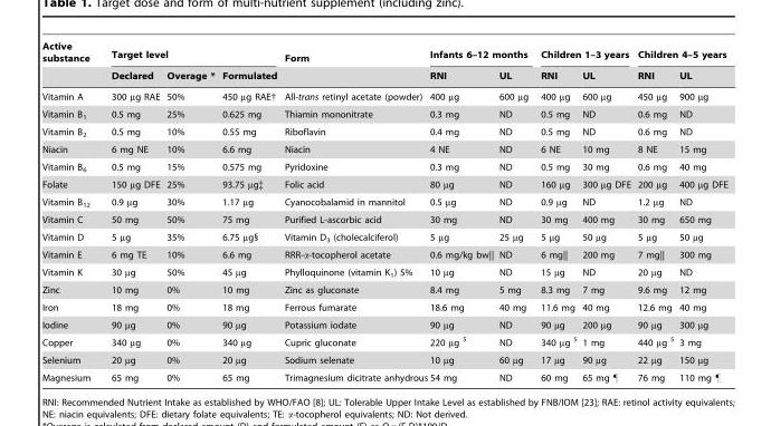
<table><thead><tr><td rowspan="2">Active substance</td><td colspan="3">Target level</td><td rowspan="2">Form</td><td colspan="2">Infants 6–12 months</td><td colspan="2">Children 1–3 years</td><td colspan="2">Children 4–5 years</td></tr><tr><td>Declared</td><td>Overage *</td><td>Formulated</td><td>RNI</td><td>UL</td><td>RNI</td><td>UL</td><td>RNI</td><td>UL</td></tr></thead><tbody><tr><td>Vitamin A</td><td>300 µg RAE</td><td>50%</td><td>450 µg RAE†</td><td>All-trans retinyl acetate (powder)</td><td>400 µg</td><td>600 µg</td><td>400 µg</td><td>600 µg</td><td>450 µg</td><td>900 µg</td></tr><tr><td>Vitamin B<sub>1</sub></td><td>0.5 mg</td><td>25%</td><td>0.625 mg</td><td>Thiamin mononitrate</td><td>0.3 mg</td><td>ND</td><td>0.5 mg</td><td>ND</td><td>0.6 mg</td><td>ND</td></tr><tr><td>Vitamin B<sub>2</sub></td><td>0.5 mg</td><td>10%</td><td>0.55 mg</td><td>Riboflavin</td><td>0.4 mg</td><td>ND</td><td>0.5 mg</td><td>ND</td><td>0.6 mg</td><td>ND</td></tr><tr><td>Niacin</td><td>6 mg NE</td><td>10%</td><td>6.6 mg</td><td>Niacin</td><td>4 NE</td><td>ND</td><td>6 NE</td><td>10 mg</td><td>8 NE</td><td>15 mg</td></tr><tr><td>Vitamin B<sub>6</sub></td><td>0.5 mg</td><td>15%</td><td>0.575 mg</td><td>Pyridoxine</td><td>0.3 mg</td><td>ND</td><td>0.5 mg</td><td>30 mg</td><td>0.6 mg</td><td>40 mg</td></tr><tr><td>Folate</td><td>150 µg DFE</td><td>25%</td><td>93.75 µg‡</td><td>Folic acid</td><td>80 µg</td><td>ND</td><td>160 µg</td><td>300 µg DFE</td><td>200 µg</td><td>400 µg DFE</td></tr><tr><td>Vitamin B<sub>12</sub></td><td>0.9 µg</td><td>30%</td><td>1.17 µg</td><td>Cyanocobalamid in mannitol</td><td>0.5 µg</td><td>ND</td><td>0.9 µg</td><td>ND</td><td>1.2 µg</td><td>ND</td></tr><tr><td>Vitamin C</td><td>50 mg</td><td>50%</td><td>75 mg</td><td>Purified L-ascorbic acid</td><td>30 mg</td><td>ND</td><td>30 mg</td><td>400 mg</td><td>30 mg</td><td>650 mg</td></tr><tr><td>Vitamin D</td><td>5 µg</td><td>35%</td><td>6.75 µg§</td><td>Vitamin D<sub>3</sub> (cholecalciferol)</td><td>5 µg</td><td>25 µg</td><td>5 µg</td><td>50 µg</td><td>5 µg</td><td>50 µg</td></tr><tr><td>Vitamin E</td><td>6 mg TE</td><td>10%</td><td>6.6 mg</td><td>RRR-α-tocopherol acetate</td><td>0.6 mg/kg bw||</td><td>ND</td><td>6 mg||</td><td>200 mg</td><td>7 mg||</td><td>300 mg</td></tr><tr><td>Vitamin K</td><td>30 µg</td><td>50%</td><td>45 µg</td><td>Phylloquinone (vitamin K<sub>1</sub>) 5%</td><td>10 µg</td><td>ND</td><td>15 µg</td><td>ND</td><td>20 µg</td><td>ND</td></tr><tr><td>Zinc</td><td>10 mg</td><td>0%</td><td>10 mg</td><td>Zinc as gluconate</td><td>8.4 mg</td><td>5 mg</td><td>8.3 mg</td><td>7 mg</td><td>9.6 mg</td><td>12 mg</td></tr><tr><td>Iron</td><td>18 mg</td><td>0%</td><td>18 mg</td><td>Ferrous fumarate</td><td>18.6 mg</td><td>40 mg</td><td>11.6 mg</td><td>40 mg</td><td>12.6 mg</td><td>40 mg</td></tr><tr><td>Iodine</td><td>90 µg</td><td>0%</td><td>90 µg</td><td>Potassium iodate</td><td>90 µg</td><td>ND</td><td>90 µg</td><td>200 µg</td><td>90 µg</td><td>300 µg</td></tr><tr><td>Copper</td><td>340 µg</td><td>0%</td><td>340 µg</td><td>Cupric gluconate</td><td>220 µg <sup>5</sup></td><td>ND</td><td>340 µg <sup>5</sup></td><td>1 mg</td><td>440 µg <sup>5</sup></td><td>3 mg</td></tr><tr><td>Selenium</td><td>20 µg</td><td>0%</td><td>20 µg</td><td>Sodium selenate</td><td>10 µg</td><td>60 µg</td><td>17 µg</td><td>90 µg</td><td>22 µg</td><td>150 µg</td></tr><tr><td>Magnesium</td><td>65 mg</td><td>0%</td><td>65 mg</td><td>Trimagnesium dicitrate anhydrous</td><td>54 mg</td><td>ND</td><td>60 mg</td><td>65 mg ¶</td><td>76 mg</td><td>110 mg ¶</td></tr></tbody></table>